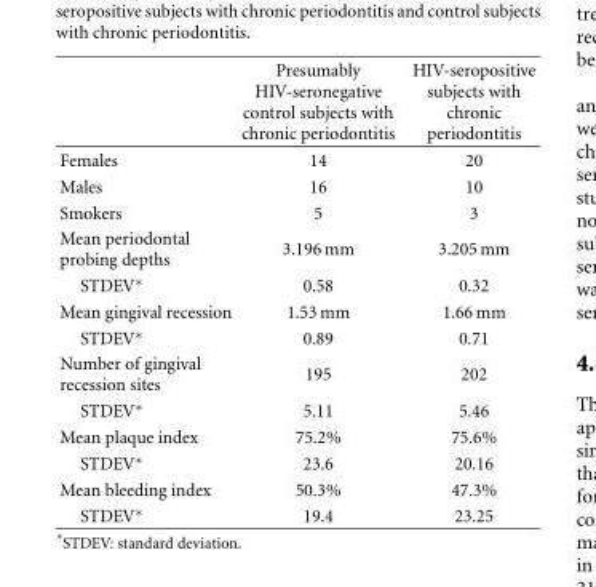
<table><thead><tr><td></td><td>Presumably HIV-seronegative control subjects with chronic periodontitis</td><td>HIV-seropositive subjects with chronic periodontitis</td></tr></thead><tbody><tr><td>Females</td><td>14</td><td>20</td></tr><tr><td>Males</td><td>16</td><td>10</td></tr><tr><td>Smokers</td><td>5</td><td>3</td></tr><tr><td>Mean periodontal probing depths</td><td>3.196 mm</td><td>3.205 mm</td></tr><tr><td>STDEV∗</td><td>0.58</td><td>0.32</td></tr><tr><td>Mean gingival recession</td><td>1.53 mm</td><td>1.66 mm</td></tr><tr><td>STDEV∗</td><td>0.89</td><td>0.71</td></tr><tr><td>Number of gingival recession sites</td><td>195</td><td>202</td></tr><tr><td>STDEV∗</td><td>5.11</td><td>5.46</td></tr><tr><td>Mean plaque index</td><td>75.2%</td><td>75.6%</td></tr><tr><td>STDEV∗</td><td>23.6</td><td>20.16</td></tr><tr><td>Mean bleeding index</td><td>50.3%</td><td>47.3%</td></tr><tr><td>STDEV∗</td><td>19.4</td><td>23.25</td></tr></tbody></table>